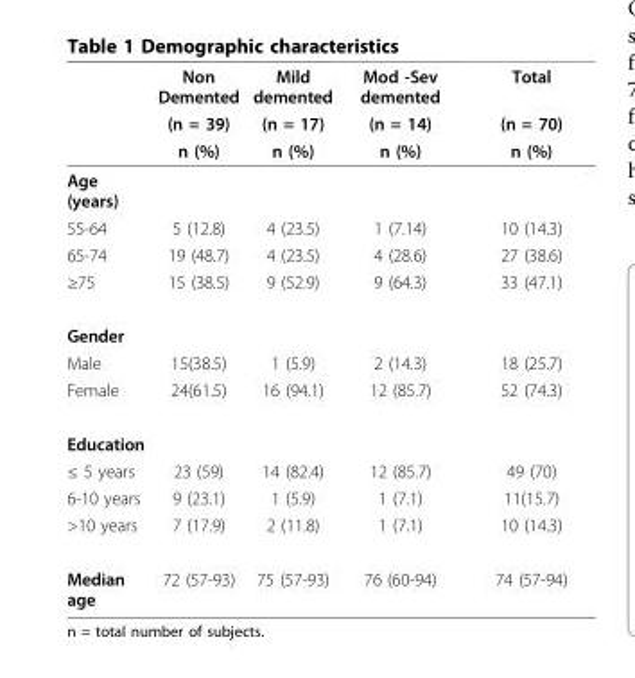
<table><thead><tr><td rowspan="3"></td><td rowspan="3">Non Demented (n = 39) n (%)</td><td rowspan="3">Mild demented (n = 17) n (%)</td><td rowspan="3">Mod -Sev demented (n = 14) n (%)</td><td rowspan="3">Total (n = 70) n (%)</td></tr><tr></tr><tr></tr></thead><tbody><tr><td colspan="5">Age (years)</td></tr><tr><td>55-64</td><td>5 (12.8)</td><td>4 (23.5)</td><td>1 (7.14)</td><td>10 (14.3)</td></tr><tr><td>65-74</td><td>19 (48.7)</td><td>4 (23.5)</td><td>4 (28.6)</td><td>27 (38.6)</td></tr><tr><td>≥75</td><td>15 (38.5)</td><td>9 (52.9)</td><td>9 (64.3)</td><td>33 (47.1)</td></tr><tr><td colspan="5">Gender</td></tr><tr><td>Male</td><td>15(38.5)</td><td>1 (5.9)</td><td>2 (14.3)</td><td>18 (25.7)</td></tr><tr><td>Female</td><td>24(61.5)</td><td>16 (94.1)</td><td>12 (85.7)</td><td>52 (74.3)</td></tr><tr><td colspan="5">Education</td></tr><tr><td>≤ 5 years</td><td>23 (59)</td><td>14 (82.4)</td><td>12 (85.7)</td><td>49 (70)</td></tr><tr><td>6-10 years</td><td>9 (23.1)</td><td>1 (5.9)</td><td>1 (7.1)</td><td>11(15.7)</td></tr><tr><td>&gt;10 years</td><td>7 (17.9)</td><td>2 (11.8)</td><td>1 (7.1)</td><td>10 (14.3)</td></tr><tr><td>Median age</td><td>72 (57-93)</td><td>75 (57-93)</td><td>76 (60-94)</td><td>74 (57-94)</td></tr></tbody></table>